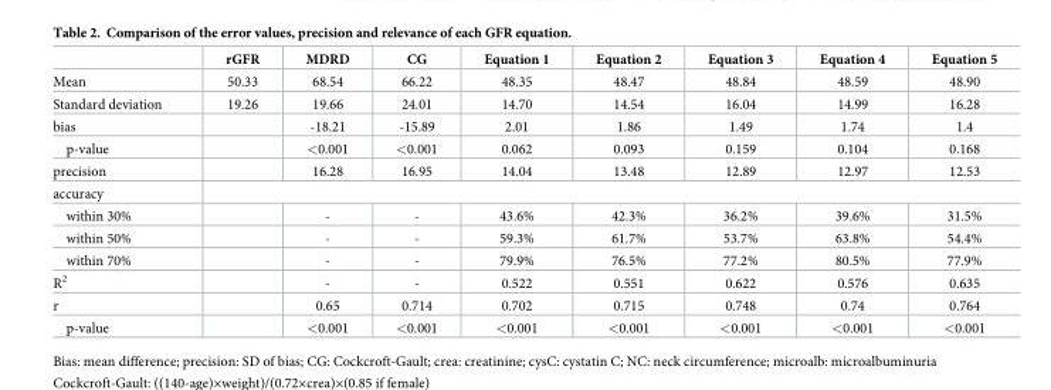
<table><thead><tr><td></td><td>rGFR</td><td>MDRD</td><td>CG</td><td>Equation 1</td><td>Equation 2</td><td>Equation 3</td><td>Equation 4</td><td>Equation 5</td></tr></thead><tbody><tr><td>Mean</td><td>50.33</td><td>68.54</td><td>66.22</td><td>48.35</td><td>48.47</td><td>48.84</td><td>48.59</td><td>48.90</td></tr><tr><td>Standard deviation</td><td>19.26</td><td>19.66</td><td>24.01</td><td>14.70</td><td>14.54</td><td>16.04</td><td>14.99</td><td>16.28</td></tr><tr><td>bias</td><td></td><td>-18.21</td><td>-15.89</td><td>2.01</td><td>1.86</td><td>1.49</td><td>1.74</td><td>1.4</td></tr><tr><td>p-value</td><td></td><td>&lt;0.001</td><td>&lt;0.001</td><td>0.062</td><td>0.093</td><td>0.159</td><td>0.104</td><td>0.168</td></tr><tr><td>precision</td><td></td><td>16.28</td><td>16.95</td><td>14.04</td><td>13.48</td><td>12.89</td><td>12.97</td><td>12.53</td></tr><tr><td colspan="9">accuracy</td></tr><tr><td>within 30%</td><td></td><td>-</td><td>-</td><td>43.6%</td><td>42.3%</td><td>36.2%</td><td>39.6%</td><td>31.5%</td></tr><tr><td>within 50%</td><td></td><td>-</td><td>-</td><td>59.3%</td><td>61.7%</td><td>53.7%</td><td>63.8%</td><td>54.4%</td></tr><tr><td>within 70%</td><td></td><td>-</td><td>-</td><td>79.9%</td><td>76.5%</td><td>77.2%</td><td>80.5%</td><td>77.9%</td></tr><tr><td>R<sup>2</sup></td><td></td><td>-</td><td>-</td><td>0.522</td><td>0.551</td><td>0.622</td><td>0.576</td><td>0.635</td></tr><tr><td>r</td><td></td><td>0.65</td><td>0.714</td><td>0.702</td><td>0.715</td><td>0.748</td><td>0.74</td><td>0.764</td></tr><tr><td>p-value</td><td></td><td>&lt;0.001</td><td>&lt;0.001</td><td>&lt;0.001</td><td>&lt;0.001</td><td>&lt;0.001</td><td>&lt;0.001</td><td>&lt;0.001</td></tr></tbody></table>